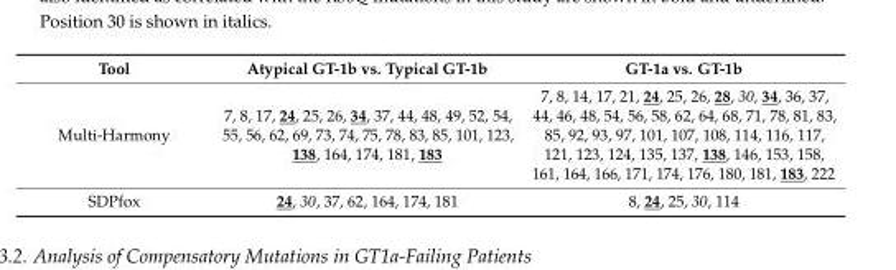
<table><thead><tr><td>Tool</td><td>Atypical GT-1b vs. Typical GT-1b</td><td>GT-1a vs. GT-1b</td></tr></thead><tbody><tr><td>Multi-Harmony</td><td>7, 8, 17, 24, 25, 26, 34, 37, 44, 48, 49, 52, 54, 55, 56, 62, 69, 73, 74, 75, 78, 83, 85, 101, 123, 138, 164, 174, 181, 183</td><td>7, 8, 14, 17, 21, 24, 25, 26, 28, 30, 34, 36, 37, 44, 46, 48, 54, 56, 58, 62, 64, 68, 71, 78, 81, 83, 85, 92, 93, 97, 101, 107, 108, 114, 116, 117, 121, 123, 124, 135, 137, 138, 146, 153, 158, 161, 164, 166, 171, 174, 176, 180, 181, 183, 222</td></tr><tr><td>SDPfox</td><td>24, 30, 37, 62, 164, 174, 181</td><td>8, 24, 25, 30, 114</td></tr></tbody></table>